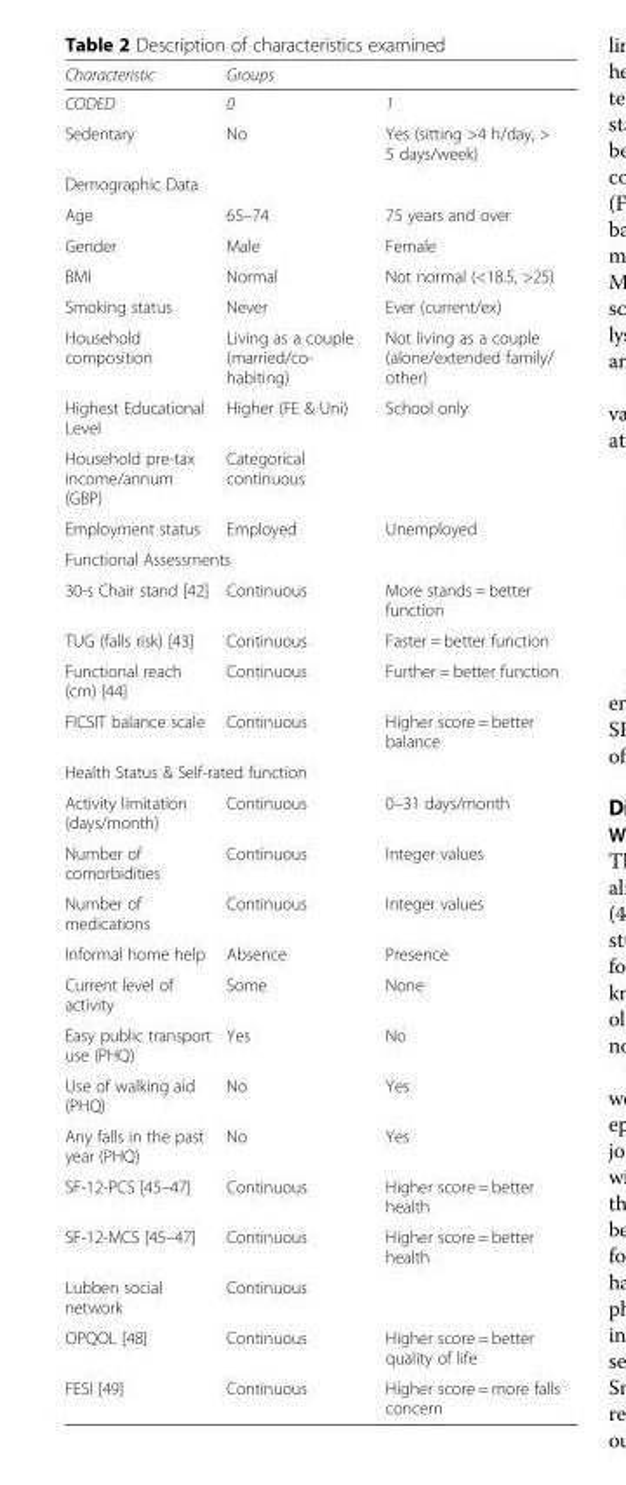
<table><thead><tr><td rowspan="2">Characteristic CODED</td><td colspan="2">Groups</td></tr><tr><td>0</td><td>1</td></tr></thead><tbody><tr><td>Sedentary</td><td>No</td><td>Yes (sitting &gt;4 h/day, &gt; 5 days/week)</td></tr><tr><td colspan="3">Demographic Data</td></tr><tr><td>Age</td><td>65–74</td><td>75 years and over</td></tr><tr><td>Gender</td><td>Male</td><td>Female</td></tr><tr><td>BMI</td><td>Normal</td><td>Not normal (&lt;18.5, &gt;25)</td></tr><tr><td>Smoking status</td><td>Never</td><td>Ever (current/ex)</td></tr><tr><td>Household composition</td><td>Living as a couple (married/co- habiting)</td><td>Not living as a couple (alone/extended family/ other)</td></tr><tr><td>Highest Educational Level</td><td>Higher (FE &amp; Uni)</td><td>School only</td></tr><tr><td>Household pre-tax income/annum (GBP)</td><td>Categorical continuous</td><td></td></tr><tr><td>Employment status</td><td>Employed</td><td>Unemployed</td></tr><tr><td colspan="3">Functional Assessments</td></tr><tr><td>30-s Chair stand [42]</td><td>Continuous</td><td>More stands = better function</td></tr><tr><td>TUG (falls risk) [43]</td><td>Continuous</td><td>Faster = better function</td></tr><tr><td>Functional reach (cm) [44]</td><td>Continuous</td><td>Further = better function</td></tr><tr><td>FICSIT balance scale</td><td>Continuous</td><td>Higher score = better balance</td></tr><tr><td colspan="3">Health Status &amp; Self-rated function</td></tr><tr><td>Activity limitation (days/month)</td><td>Continuous</td><td>0–31 days/month</td></tr><tr><td>Number of comorbidities</td><td>Continuous</td><td>Integer values</td></tr><tr><td>Number of medications</td><td>Continuous</td><td>Integer values</td></tr><tr><td>Informal home help</td><td>Absence</td><td>Presence</td></tr><tr><td>Current level of activity</td><td>Some</td><td>None</td></tr><tr><td>Easy public transport use (PHQ)</td><td>Yes</td><td>No</td></tr><tr><td>Use of walking aid (PHQ)</td><td>No</td><td>Yes</td></tr><tr><td>Any falls in the past year (PHQ)</td><td>No</td><td>Yes</td></tr><tr><td>SF-12-PCS [45–47]</td><td>Continuous</td><td>Higher score = better health</td></tr><tr><td>SF-12-MCS [45–47]</td><td>Continuous</td><td>Higher score = better health</td></tr><tr><td>Lubben social network</td><td>Continuous</td><td></td></tr><tr><td>OPQOL [48]</td><td>Continuous</td><td>Higher score = better quality of life</td></tr><tr><td>FESI [49]</td><td>Continuous</td><td>Higher score = more falls concern</td></tr></tbody></table>